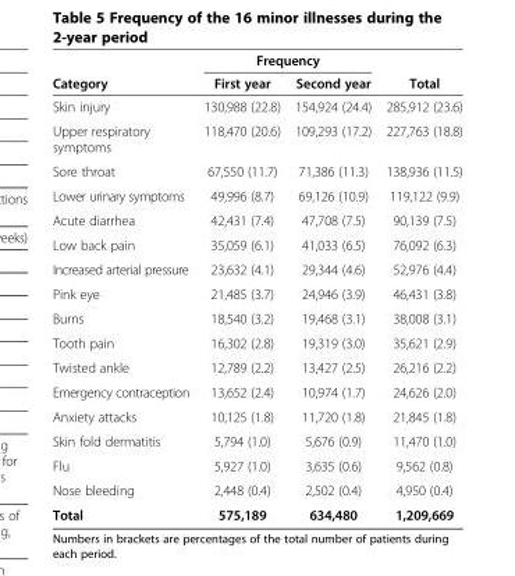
<table><thead><tr><td rowspan="2">Category</td><td colspan="2">Frequency</td><td rowspan="2">Total</td></tr><tr><td>First year</td><td>Second year</td></tr></thead><tbody><tr><td>Skin injury</td><td>130,988 (22.8)</td><td>154,924 (24.4)</td><td>285,912 (23.6)</td></tr><tr><td>Upper respiratory symptoms</td><td>118,470 (20.6)</td><td>109,293 (17.2)</td><td>227,763 (18.8)</td></tr><tr><td>Sore throat</td><td>67,550 (11.7)</td><td>71,386 (11.3)</td><td>138,936 (11.5)</td></tr><tr><td>Lower urinary symptoms</td><td>49,996 (8.7)</td><td>69,126 (10.9)</td><td>119,122 (9.9)</td></tr><tr><td>Acute diarrhea</td><td>42,431 (7.4)</td><td>47,708 (7.5)</td><td>90,139 (7.5)</td></tr><tr><td>Low back pain</td><td>35,059 (6.1)</td><td>41,033 (6.5)</td><td>76,092 (6.3)</td></tr><tr><td>Increased arterial pressure</td><td>23,632 (4.1)</td><td>29,344 (4.6)</td><td>52,976 (4.4)</td></tr><tr><td>Pink eye</td><td>21,485 (3.7)</td><td>24,946 (3.9)</td><td>46,431 (3.8)</td></tr><tr><td>Burns</td><td>18,540 (3.2)</td><td>19,468 (3.1)</td><td>38,008 (3.1)</td></tr><tr><td>Tooth pain</td><td>16,302 (2.8)</td><td>19,319 (3.0)</td><td>35,621 (2.9)</td></tr><tr><td>Twisted ankle</td><td>12,789 (2.2)</td><td>13,427 (2.5)</td><td>26,216 (2.2)</td></tr><tr><td>Emergency contraception</td><td>13,652 (2.4)</td><td>10,974 (1.7)</td><td>24,626 (2.0)</td></tr><tr><td>Anxiety attacks</td><td>10,125 (1.8)</td><td>11,720 (1.8)</td><td>21,845 (1.8)</td></tr><tr><td>Skin fold dermatitis</td><td>5,794 (1.0)</td><td>5,676 (0.9)</td><td>11,470 (1.0)</td></tr><tr><td>Flu</td><td>5,927 (1.0)</td><td>3,635 (0.6)</td><td>9,562 (0.8)</td></tr><tr><td>Nose bleeding</td><td>2,448 (0.4)</td><td>2,502 (0.4)</td><td>4,950 (0.4)</td></tr><tr><td>Total</td><td>575,189</td><td>634,480</td><td>1,209,669</td></tr></tbody></table>